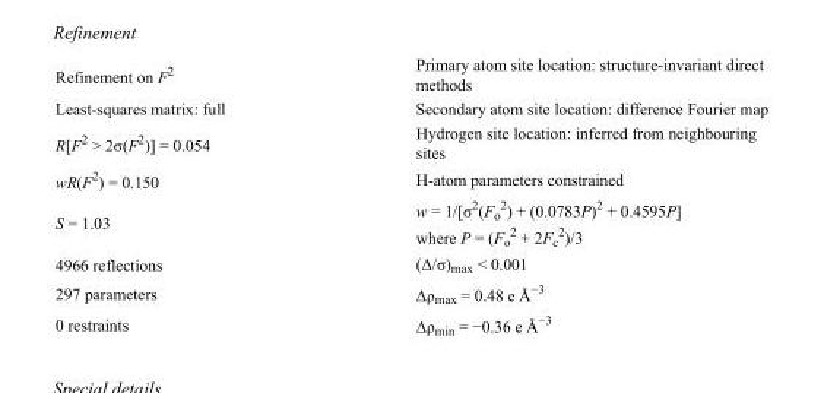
<table><tbody><tr><td>Refinement on F<sup>2</sup></td><td>Primary atom site location: structure-invariant direct methods</td></tr><tr><td>Least-squares matrix: full</td><td>Secondary atom site location: difference Fourier map</td></tr><tr><td>R[F<sup>2</sup> &gt; 2σ(F<sup>2</sup>)] = 0.054</td><td>Hydrogen site location: inferred from neighbouring sites</td></tr><tr><td>wR(F<sup>2</sup>) = 0.150</td><td>H-atom parameters constrained</td></tr><tr><td>S = 1.03</td><td>w = 1/[σ<sup>2</sup>(F<sub>o</sub> <sup>2</sup>) + (0.0783P)<sup>2</sup> + 0.4595P] where P = (F<sub>o</sub> <sup>2</sup> + 2F<sub>c</sub> <sup>2</sup>)/3</td></tr><tr><td>4966 reflections</td><td>(Δ/σ)<sub>max</sub> &lt; 0.001</td></tr><tr><td>297 parameters</td><td>Δρ<sub>max</sub> = 0.48 e Å<sup>−3</sup></td></tr><tr><td>0 restraints</td><td>Δρ<sub>min</sub> = −0.36 e Å<sup>−3</sup></td></tr></tbody></table>